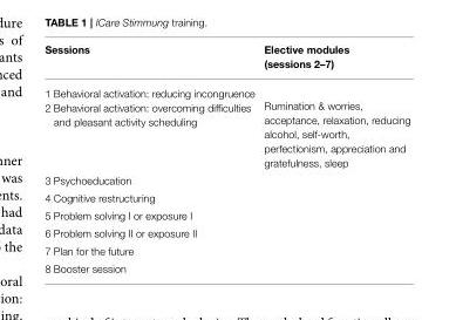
<table><thead><tr><td>Sessions</td><td>Elective modules (sessions 2–7)</td></tr></thead><tbody><tr><td colspan="2">1 Behavioral activation: reducing incongruence</td></tr><tr><td>2 Behavioral activation: overcoming difficulties and pleasant activity scheduling</td><td>Rumination &amp; worries, acceptance, relaxation, reducing alcohol, self-worth, perfectionism, appreciation and gratefulness, sleep</td></tr><tr><td colspan="2">3 Psychoeducation</td></tr><tr><td colspan="2">4 Cognitive restructuring</td></tr><tr><td colspan="2">5 Problem solving I or exposure I</td></tr><tr><td colspan="2">6 Problem solving II or exposure II</td></tr><tr><td colspan="2">7 Plan for the future</td></tr><tr><td>8 Booster session</td><td></td></tr></tbody></table>